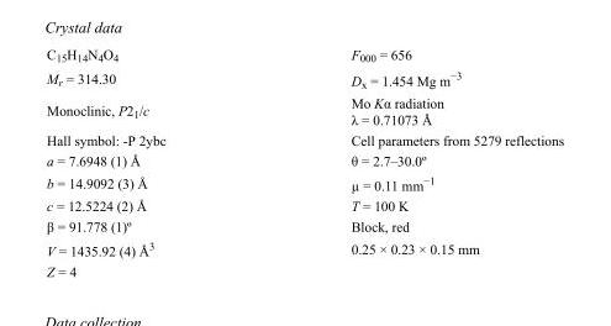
<table><tbody><tr><td>C<sub>15</sub>H<sub>14</sub>N<sub>4</sub>O<sub>4</sub></td><td>F000 = 656</td></tr><tr><td>M<sub>r</sub> = 314.30</td><td>D<sub>x</sub> = 1.454 Mg m<sup>−3</sup></td></tr><tr><td>Monoclinic, P2<sub>1</sub>/c</td><td>Mo Kα radiation λ = 0.71073 Å</td></tr><tr><td>Hall symbol: -P 2ybc</td><td>Cell parameters from 5279 reflections</td></tr><tr><td>a = 7.6948 (1) Å</td><td>θ = 2.7–30.0º</td></tr><tr><td>b = 14.9092 (3) Å</td><td>µ = 0.11 mm<sup>−1</sup></td></tr><tr><td>c = 12.5224 (2) Å</td><td>T = 100 K</td></tr><tr><td>β = 91.778 (1)º</td><td>Block, red</td></tr><tr><td>V = 1435.92 (4) Å<sup>3</sup></td><td>0.25 × 0.23 × 0.15 mm</td></tr><tr><td>Z = 4</td><td></td></tr></tbody></table>